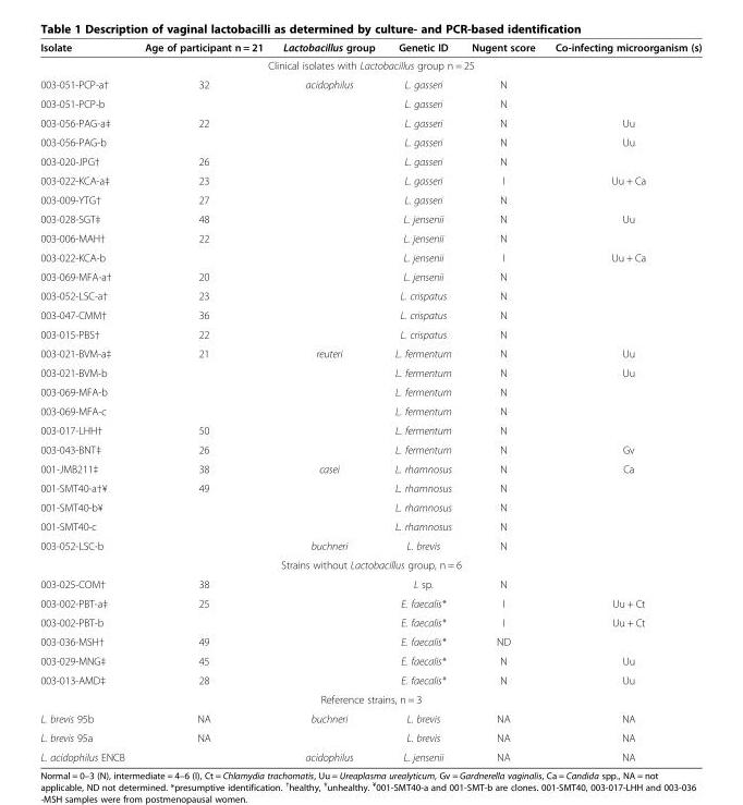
<table><thead><tr><td>Isolate</td><td>Age of participant n = 21</td><td>Lactobacillus group</td><td>Genetic ID</td><td>Nugent score</td><td>Co-infecting microorganism (s)</td></tr></thead><tbody><tr><td colspan="6">Clinical isolates with Lactobacillus group n = 25</td></tr><tr><td>003-051-PCP-a†</td><td>32</td><td rowspan="14">acidophilus</td><td>L. gasseri</td><td>N</td><td></td></tr><tr><td>003-051-PCP-b</td><td></td><td>L. gasseri</td><td>N</td><td></td></tr><tr><td>003-056-PAG-a‡</td><td>22</td><td>L. gasseri</td><td>N</td><td>Uu</td></tr><tr><td>003-056-PAG-b</td><td></td><td>L. gasseri</td><td>N</td><td>Uu</td></tr><tr><td>003-020-JPG†</td><td>26</td><td>L. gasseri</td><td>N</td><td></td></tr><tr><td>003-022-KCA-a‡</td><td>23</td><td>L. gasseri</td><td>I</td><td>Uu + Ca</td></tr><tr><td>003-009-YTG†</td><td>27</td><td>L. gasseri</td><td>N</td><td></td></tr><tr><td>003-028-SGT‡</td><td>48</td><td>L. jensenii</td><td>N</td><td>Uu</td></tr><tr><td>003-006-MAH†</td><td>22</td><td>L. jensenii</td><td>N</td><td></td></tr><tr><td>003-022-KCA-b</td><td></td><td>L. jensenii</td><td>I</td><td>Uu + Ca</td></tr><tr><td>003-069-MFA-a†</td><td>20</td><td>L. jensenii</td><td>N</td><td></td></tr><tr><td>003-052-LSC-a†</td><td>23</td><td>L. crispatus</td><td>N</td><td></td></tr><tr><td>003-047-CMM†</td><td>36</td><td>L. crispatus</td><td>N</td><td></td></tr><tr><td>003-015-PBS†</td><td>22</td><td>L. crispatus</td><td>N</td><td></td></tr><tr><td>003-021-BVM-a‡</td><td>21</td><td rowspan="6">reuteri</td><td>L. fermentum</td><td>N</td><td>Uu</td></tr><tr><td>003-021-BVM-b</td><td></td><td>L. fermentum</td><td>N</td><td>Uu</td></tr><tr><td>003-069-MFA-b</td><td></td><td>L. fermentum</td><td>N</td><td></td></tr><tr><td>003-069-MFA-c</td><td></td><td>L. fermentum</td><td>N</td><td></td></tr><tr><td>003-017-LHH†</td><td>50</td><td>L. fermentum</td><td>N</td><td></td></tr><tr><td>003-043-BNT‡</td><td>26</td><td>L. fermentum</td><td>N</td><td>Gv</td></tr><tr><td>001-JMB211‡</td><td>38</td><td rowspan="4">casei</td><td>L. rhamnosus</td><td>N</td><td>Ca</td></tr><tr><td>001-SMT40-a†¥</td><td>49</td><td>L. rhamnosus</td><td>N</td><td></td></tr><tr><td>001-SMT40-b¥</td><td></td><td>L. rhamnosus</td><td>N</td><td></td></tr><tr><td>001-SMT40-c</td><td></td><td>L. rhamnosus</td><td>N</td><td></td></tr><tr><td>003-052-LSC-b</td><td></td><td>buchneri</td><td>L. brevis</td><td>N</td><td></td></tr><tr><td colspan="6">Strains without Lactobacillus group, n = 6</td></tr><tr><td>003-025-COM†</td><td>38</td><td></td><td>L sp.</td><td>N</td><td></td></tr><tr><td>003-002-PBT-a‡</td><td>25</td><td></td><td>E. faecalis*</td><td>I</td><td>Uu + Ct</td></tr><tr><td>003-002-PBT-b</td><td></td><td></td><td>E. faecalis*</td><td>I</td><td>Uu + Ct</td></tr><tr><td>003-036-MSH†</td><td>49</td><td></td><td>E. faecalis*</td><td>ND</td><td></td></tr><tr><td>003-029-MNG‡</td><td>45</td><td></td><td>E. faecalis*</td><td>N</td><td>Uu</td></tr><tr><td>003-013-AMD‡</td><td>28</td><td></td><td>E. faecalis*</td><td>N</td><td>Uu</td></tr><tr><td colspan="6">Reference strains, n = 3</td></tr><tr><td>L. brevis 95b</td><td>NA</td><td>buchneri</td><td>L. brevis</td><td>NA</td><td>NA</td></tr><tr><td>L. brevis 95a</td><td>NA</td><td></td><td>L. brevis</td><td>NA</td><td>NA</td></tr><tr><td>L. acidophilus ENCB</td><td></td><td>acidophilus</td><td>L. jensenii</td><td>NA</td><td>NA</td></tr></tbody></table>